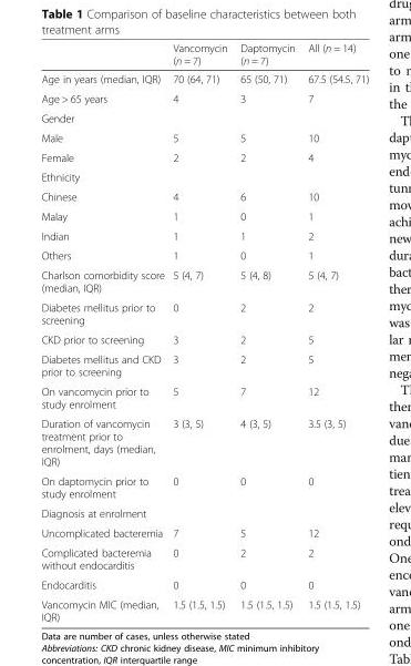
<table><thead><tr><td></td><td>Vancomycin (n = 7)</td><td>Daptomycin (n = 7)</td><td>All (n = 14)</td></tr></thead><tbody><tr><td>Age in years (median, IQR)</td><td>70 (64, 71)</td><td>65 (50, 71)</td><td>67.5 (54.5, 71)</td></tr><tr><td>Age &gt; 65 years</td><td>4</td><td>3</td><td>7</td></tr><tr><td colspan="4">Gender</td></tr><tr><td>Male</td><td>5</td><td>5</td><td>10</td></tr><tr><td>Female</td><td>2</td><td>2</td><td>4</td></tr><tr><td colspan="4">Ethnicity</td></tr><tr><td>Chinese</td><td>4</td><td>6</td><td>10</td></tr><tr><td>Malay</td><td>1</td><td>0</td><td>1</td></tr><tr><td>Indian</td><td>1</td><td>1</td><td>2</td></tr><tr><td>Others</td><td>1</td><td>0</td><td>1</td></tr><tr><td>Charlson comorbidity score (median, IQR)</td><td>5 (4, 7)</td><td>5 (4, 8)</td><td>5 (4, 7)</td></tr><tr><td>Diabetes mellitus prior to screening</td><td>0</td><td>2</td><td>2</td></tr><tr><td>CKD prior to screening</td><td>3</td><td>2</td><td>5</td></tr><tr><td>Diabetes mellitus and CKD prior to screening</td><td>3</td><td>2</td><td>5</td></tr><tr><td>On vancomycin prior to study enrolment</td><td>5</td><td>7</td><td>12</td></tr><tr><td>Duration of vancomycin treatment prior to enrolment, days (median, IQR)</td><td>3 (3, 5)</td><td>4 (3, 5)</td><td>3.5 (3, 5)</td></tr><tr><td>On daptomycin prior to study enrolment</td><td>0</td><td>0</td><td>0</td></tr><tr><td colspan="4">Diagnosis at enrolment</td></tr><tr><td>Uncomplicated bacteremia</td><td>7</td><td>5</td><td>12</td></tr><tr><td>Complicated bacteremia without endocarditis</td><td>0</td><td>2</td><td>2</td></tr><tr><td>Endocarditis</td><td>0</td><td>0</td><td>0</td></tr><tr><td>Vancomycin MIC (median, IQR)</td><td>1.5 (1.5, 1.5)</td><td>1.5 (1.5, 1.5)</td><td>1.5 (1.5, 1.5)</td></tr></tbody></table>